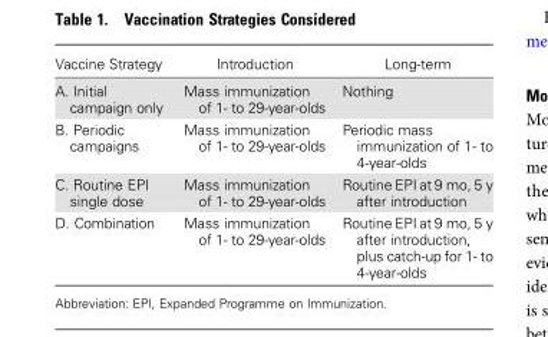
<table><thead><tr><td>Vaccine Strategy</td><td>Introduction</td><td>Long-term</td></tr></thead><tbody><tr><td>A. Initial campaign only</td><td>Mass immunization of 1- to 29-year-olds</td><td>Nothing</td></tr><tr><td>B. Periodic campaigns</td><td>Mass immunization of 1- to 29-year-olds</td><td>Periodic mass immunization of 1- to 4-year-olds</td></tr><tr><td>C. Routine EPI single dose</td><td>Mass immunization of 1- to 29-year-olds</td><td>Routine EPI at 9 mo, 5 y after introduction</td></tr><tr><td>D. Combination</td><td>Mass immunization of 1- to 29-year-olds</td><td>Routine EPI at 9 mo, 5 y after introduction, plus catch-up for 1- to 4-year-olds</td></tr></tbody></table>